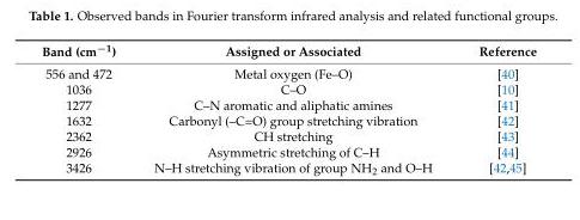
<table><thead><tr><td>Band (cm<sup>−1</sup>)</td><td>Assigned or Associated</td><td>Reference</td></tr></thead><tbody><tr><td>556 and 472</td><td>Metal oxygen (Fe–O)</td><td>[40]</td></tr><tr><td>1036</td><td>C–O</td><td>[10]</td></tr><tr><td>1277</td><td>C–N aromatic and aliphatic amines</td><td>[41]</td></tr><tr><td>1632</td><td>Carbonyl (–C=O) group stretching vibration</td><td>[42]</td></tr><tr><td>2362</td><td>CH stretching</td><td>[43]</td></tr><tr><td>2926</td><td>Asymmetric stretching of C–H</td><td>[44]</td></tr><tr><td>3426</td><td>N–H stretching vibration of group NH<sub>2</sub> and O–H</td><td>[42,45]</td></tr></tbody></table>